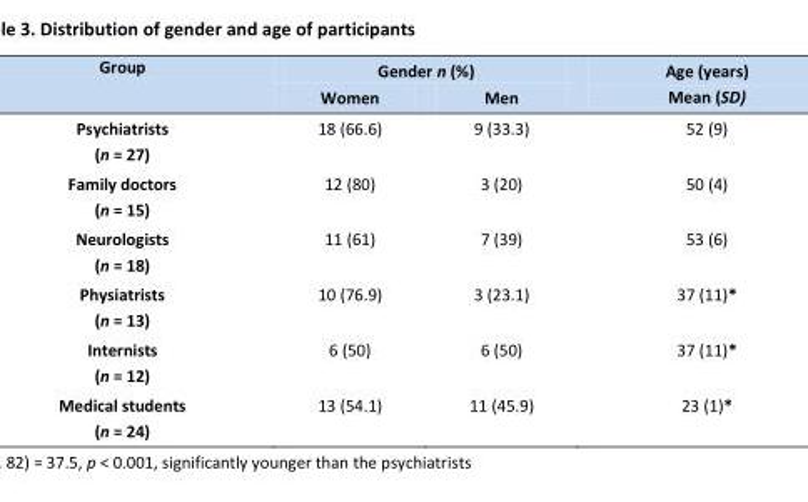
<table><thead><tr><td rowspan="2">Group</td><td colspan="2">Gender n (%)</td><td rowspan="2">Age (years) Mean (SD)</td></tr><tr><td>Women</td><td>Men</td></tr></thead><tbody><tr><td>Psychiatrists (n = 27)</td><td>18 (66.6)</td><td>9 (33.3)</td><td>52 (9)</td></tr><tr><td>Family doctors (n = 15)</td><td>12 (80)</td><td>3 (20)</td><td>50 (4)</td></tr><tr><td>Neurologists (n = 18)</td><td>11 (61)</td><td>7 (39)</td><td>53 (6)</td></tr><tr><td>Physiatrists (n = 13)</td><td>10 (76.9)</td><td>3 (23.1)</td><td>37 (11)*</td></tr><tr><td>Internists (n = 12)</td><td>6 (50)</td><td>6 (50)</td><td>37 (11)*</td></tr><tr><td>Medical students (n = 24)</td><td>13 (54.1)</td><td>11 (45.9)</td><td>23 (1)*</td></tr></tbody></table>